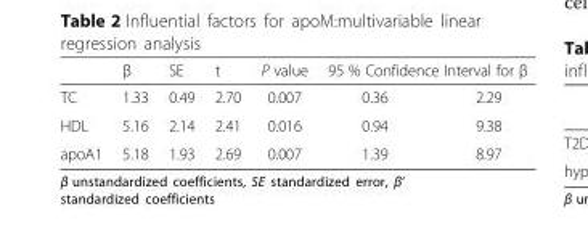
<table><thead><tr><td rowspan="2">TC</td><td rowspan="2">β 1.33</td><td rowspan="2">SE 0.49</td><td rowspan="2">t 2.70</td><td rowspan="2">P value 0.007</td><td colspan="2">95 % Confidence Interval for β</td></tr><tr><td>0.36</td><td>2.29</td></tr></thead><tbody><tr><td>HDL</td><td>5.16</td><td>2.14</td><td>2.41</td><td>0.016</td><td>0.94</td><td>9.38</td></tr><tr><td>apoA1</td><td>5.18</td><td>1.93</td><td>2.69</td><td>0.007</td><td>1.39</td><td>8.97</td></tr></tbody></table>